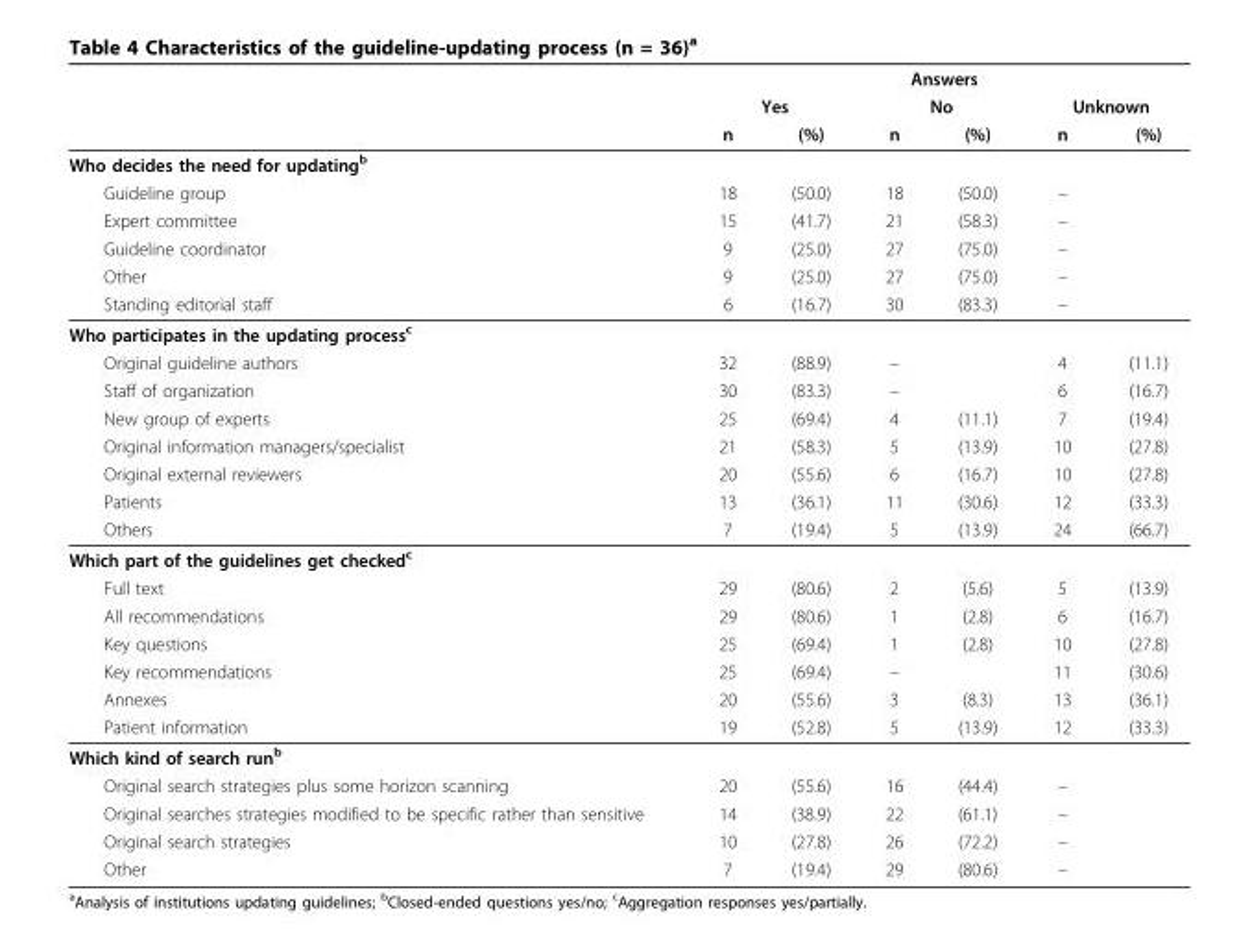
<table><thead><tr><td rowspan="3"></td><td colspan="6">Answers</td></tr><tr><td colspan="2">Yes</td><td colspan="2">No</td><td colspan="2">Unknown</td></tr><tr><td>n</td><td>(%)</td><td>n</td><td>(%)</td><td>n</td><td>(%)</td></tr></thead><tbody><tr><td colspan="7">Who decides the need for updating<sup>b</sup></td></tr><tr><td>Guideline group</td><td>18</td><td>(50.0)</td><td>18</td><td>(50.0)</td><td>–</td><td></td></tr><tr><td>Expert committee</td><td>15</td><td>(41.7)</td><td>21</td><td>(58.3)</td><td>–</td><td></td></tr><tr><td>Guideline coordinator</td><td>9</td><td>(25.0)</td><td>27</td><td>(75.0)</td><td>–</td><td></td></tr><tr><td>Other</td><td>9</td><td>(25.0)</td><td>27</td><td>(75.0)</td><td>–</td><td></td></tr><tr><td>Standing editorial staff</td><td>6</td><td>(16.7)</td><td>30</td><td>(83.3)</td><td>–</td><td></td></tr><tr><td colspan="7">Who participates in the updating process<sup>c</sup></td></tr><tr><td>Original guideline authors</td><td>32</td><td>(88.9)</td><td>–</td><td></td><td>4</td><td>(11.1)</td></tr><tr><td>Staff of organization</td><td>30</td><td>(83.3)</td><td>–</td><td></td><td>6</td><td>(16.7)</td></tr><tr><td>New group of experts</td><td>25</td><td>(69.4)</td><td>4</td><td>(11.1)</td><td>7</td><td>(19.4)</td></tr><tr><td>Original information managers/specialist</td><td>21</td><td>(58.3)</td><td>5</td><td>(13.9)</td><td>10</td><td>(27.8)</td></tr><tr><td>Original external reviewers</td><td>20</td><td>(55.6)</td><td>6</td><td>(16.7)</td><td>10</td><td>(27.8)</td></tr><tr><td>Patients</td><td>13</td><td>(36.1)</td><td>11</td><td>(30.6)</td><td>12</td><td>(33.3)</td></tr><tr><td>Others</td><td>7</td><td>(19.4)</td><td>5</td><td>(13.9)</td><td>24</td><td>(66.7)</td></tr><tr><td colspan="7">Which part of the guidelines get checked<sup>c</sup></td></tr><tr><td>Full text</td><td>29</td><td>(80.6)</td><td>2</td><td>(5.6)</td><td>5</td><td>(13.9)</td></tr><tr><td>All recommendations</td><td>29</td><td>(80.6)</td><td>1</td><td>(2.8)</td><td>6</td><td>(16.7)</td></tr><tr><td>Key questions</td><td>25</td><td>(69.4)</td><td>1</td><td>(2.8)</td><td>10</td><td>(27.8)</td></tr><tr><td>Key recommendations</td><td>25</td><td>(69.4)</td><td>–</td><td></td><td>11</td><td>(30.6)</td></tr><tr><td>Annexes</td><td>20</td><td>(55.6)</td><td>3</td><td>(8.3)</td><td>13</td><td>(36.1)</td></tr><tr><td>Patient information</td><td>19</td><td>(52.8)</td><td>5</td><td>(13.9)</td><td>12</td><td>(33.3)</td></tr><tr><td colspan="7">Which kind of search run<sup>b</sup></td></tr><tr><td>Original search strategies plus some horizon scanning</td><td>20</td><td>(55.6)</td><td>16</td><td>(44.4)</td><td>–</td><td></td></tr><tr><td>Original searches strategies modified to be specific rather than sensitive</td><td>14</td><td>(38.9)</td><td>22</td><td>(61.1)</td><td>–</td><td></td></tr><tr><td>Original search strategies</td><td>10</td><td>(27.8)</td><td>26</td><td>(72.2)</td><td>–</td><td></td></tr><tr><td>Other</td><td>7</td><td>(19.4)</td><td>29</td><td>(80.6)</td><td>–</td><td></td></tr></tbody></table>